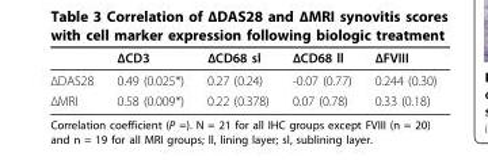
<table><thead><tr><td></td><td>ΔCD3</td><td>ΔCD68 sl</td><td>ΔCD68 ll</td><td>ΔFVIII</td></tr></thead><tbody><tr><td>ΔDAS28</td><td>0.49 (0.025*)</td><td>0.27 (0.24)</td><td>-0.07 (0.77)</td><td>0.244 (0.30)</td></tr><tr><td>ΔMRI</td><td>0.58 (0.009*)</td><td>0.22 (0.378)</td><td>0.07 (0.78)</td><td>0.33 (0.18)</td></tr></tbody></table>